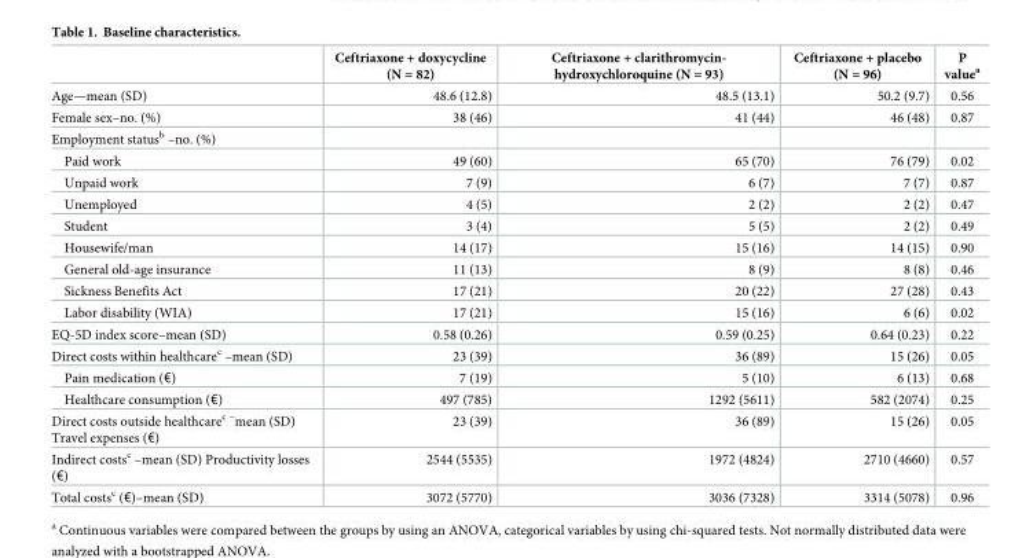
<table><thead><tr><td></td><td>Ceftriaxone + doxycycline (N = 82)</td><td>Ceftriaxone + clarithromycin- hydroxychloroquine (N = 93)</td><td>Ceftriaxone + placebo (N = 96)</td><td>P value<sup>a</sup></td></tr></thead><tbody><tr><td>Age—mean (SD)</td><td>48.6 (12.8)</td><td>48.5 (13.1)</td><td>50.2 (9.7)</td><td>0.56</td></tr><tr><td>Female sex–no. (%)</td><td>38 (46)</td><td>41 (44)</td><td>46 (48)</td><td>0.87</td></tr><tr><td colspan="5">Employment status<sup>b</sup> –no. (%)</td></tr><tr><td>Paid work</td><td>49 (60)</td><td>65 (70)</td><td>76 (79)</td><td>0.02</td></tr><tr><td>Unpaid work</td><td>7 (9)</td><td>6 (7)</td><td>7 (7)</td><td>0.87</td></tr><tr><td>Unemployed</td><td>4 (5)</td><td>2 (2)</td><td>2 (2)</td><td>0.47</td></tr><tr><td>Student</td><td>3 (4)</td><td>5 (5)</td><td>2 (2)</td><td>0.49</td></tr><tr><td>Housewife/man</td><td>14 (17)</td><td>15 (16)</td><td>14 (15)</td><td>0.90</td></tr><tr><td>General old-age insurance</td><td>11 (13)</td><td>8 (9)</td><td>8 (8)</td><td>0.46</td></tr><tr><td>Sickness Benefits Act</td><td>17 (21)</td><td>20 (22)</td><td>27 (28)</td><td>0.43</td></tr><tr><td>Labor disability (WIA)</td><td>17 (21)</td><td>15 (16)</td><td>6 (6)</td><td>0.02</td></tr><tr><td>EQ-5D index score–mean (SD)</td><td>0.58 (0.26)</td><td>0.59 (0.25)</td><td>0.64 (0.23)</td><td>0.22</td></tr><tr><td>Direct costs within healthcare<sup>c</sup> –mean (SD)</td><td>23 (39)</td><td>36 (89)</td><td>15 (26)</td><td>0.05</td></tr><tr><td>Pain medication (€)</td><td>7 (19)</td><td>5 (10)</td><td>6 (13)</td><td>0.68</td></tr><tr><td>Healthcare consumption (€)</td><td>497 (785)</td><td>1292 (5611)</td><td>582 (2074)</td><td>0.25</td></tr><tr><td>Direct costs outside healthcare<sup>c –</sup>mean (SD) Travel expenses (€)</td><td>23 (39)</td><td>36 (89)</td><td>15 (26)</td><td>0.05</td></tr><tr><td>Indirect costs<sup>c</sup> –mean (SD) Productivity losses (€)</td><td>2544 (5535)</td><td>1972 (4824)</td><td>2710 (4660)</td><td>0.57</td></tr><tr><td>Total costs<sup>c</sup> (€)–mean (SD)</td><td>3072 (5770)</td><td>3036 (7328)</td><td>3314 (5078)</td><td>0.96</td></tr></tbody></table>